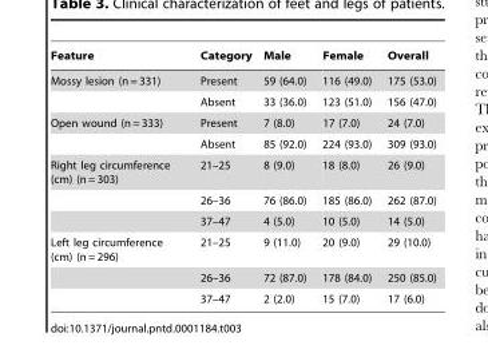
<table><thead><tr><td>Feature</td><td>Category</td><td>Male</td><td>Female</td><td>Overall</td></tr></thead><tbody><tr><td rowspan="2">Mossy lesion (n = 331)</td><td>Present</td><td>59 (64.0)</td><td>116 (49.0)</td><td>175 (53.0)</td></tr><tr><td>Absent</td><td>33 (36.0)</td><td>123 (51.0)</td><td>156 (47.0)</td></tr><tr><td rowspan="2">Open wound (n = 333)</td><td>Present</td><td>7 (8.0)</td><td>17 (7.0)</td><td>24 (7.0)</td></tr><tr><td>Absent</td><td>85 (92.0)</td><td>224 (93.0)</td><td>309 (93.0)</td></tr><tr><td rowspan="3">Right leg circumference (cm) (n = 303)</td><td>21–25</td><td>8 (9.0)</td><td>18 (8.0)</td><td>26 (9.0)</td></tr><tr><td>26–36</td><td>76 (86.0)</td><td>185 (86.0)</td><td>262 (87.0)</td></tr><tr><td>37–47</td><td>4 (5.0)</td><td>10 (5.0)</td><td>14 (5.0)</td></tr><tr><td rowspan="3">Left leg circumference (cm) (n = 296)</td><td>21–25</td><td>9 (11.0)</td><td>20 (9.0)</td><td>29 (10.0)</td></tr><tr><td>26–36</td><td>72 (87.0)</td><td>178 (84.0)</td><td>250 (85.0)</td></tr><tr><td>37–47</td><td>2 (2.0)</td><td>15 (7.0)</td><td>17 (6.0)</td></tr></tbody></table>